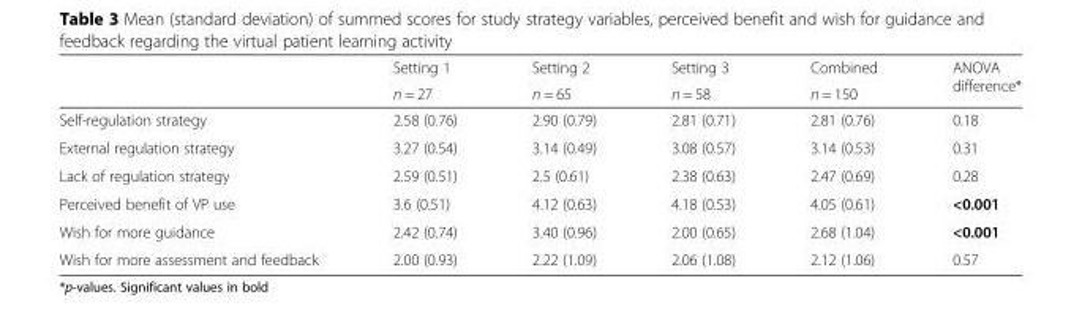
<table><thead><tr><td rowspan="2"></td><td rowspan="2">Setting 1 n = 27</td><td rowspan="2">Setting 2 n = 65</td><td rowspan="2">Setting 3 n = 58</td><td rowspan="2">Combined n = 150</td><td rowspan="2">ANOVA difference*</td></tr><tr></tr></thead><tbody><tr><td>Self-regulation strategy</td><td>2.58 (0.76)</td><td>2.90 (0.79)</td><td>2.81 (0.71)</td><td>2.81 (0.76)</td><td>0.18</td></tr><tr><td>External regulation strategy</td><td>3.27 (0.54)</td><td>3.14 (0.49)</td><td>3.08 (0.57)</td><td>3.14 (0.53)</td><td>0.31</td></tr><tr><td>Lack of regulation strategy</td><td>2.59 (0.51)</td><td>2.5 (0.61)</td><td>2.38 (0.63)</td><td>2.47 (0.69)</td><td>0.28</td></tr><tr><td>Perceived benefit of VP use</td><td>3.6 (0.51)</td><td>4.12 (0.63)</td><td>4.18 (0.53)</td><td>4.05 (0.61)</td><td>&lt;0.001</td></tr><tr><td>Wish for more guidance</td><td>2.42 (0.74)</td><td>3.40 (0.96)</td><td>2.00 (0.65)</td><td>2.68 (1.04)</td><td>&lt;0.001</td></tr><tr><td>Wish for more assessment and feedback</td><td>2.00 (0.93)</td><td>2.22 (1.09)</td><td>2.06 (1.08)</td><td>2.12 (1.06)</td><td>0.57</td></tr></tbody></table>